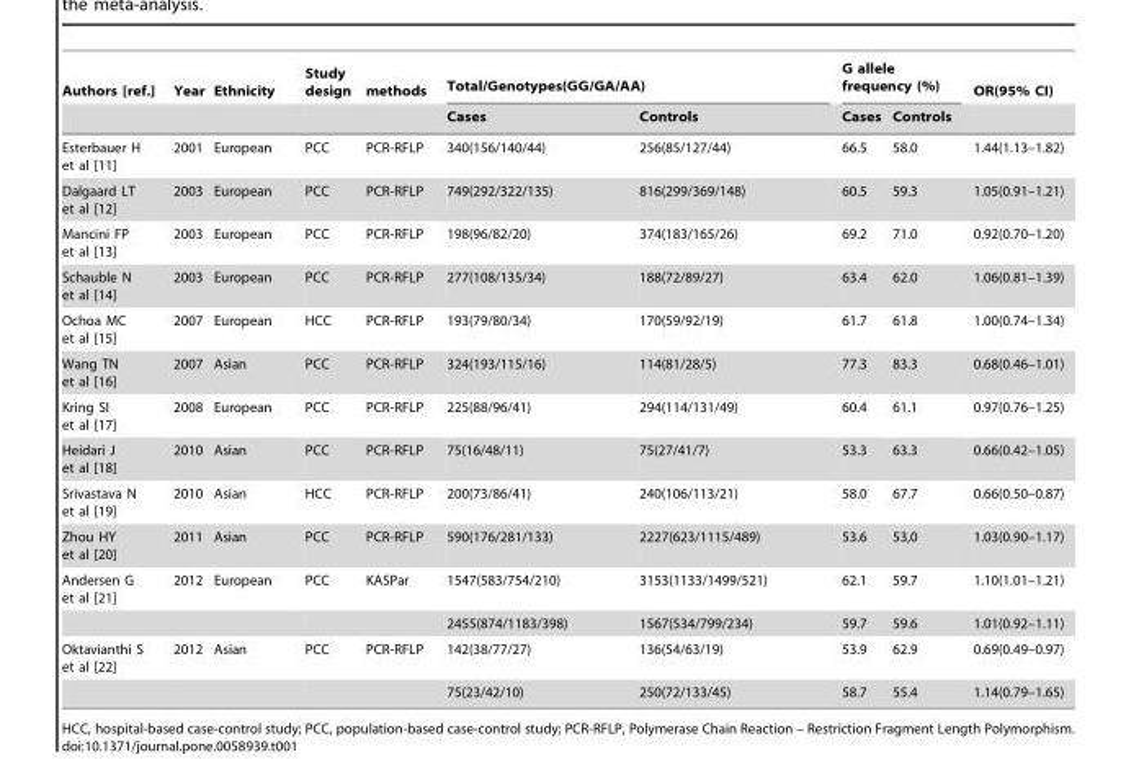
<table><thead><tr><td rowspan="2">Authors [ref.]</td><td rowspan="2">Year</td><td rowspan="2">Ethnicity</td><td rowspan="2">Study design</td><td rowspan="2">methods</td><td colspan="2">Total/Genotypes(GG/GA/AA)</td><td colspan="2">G allele frequency (%)</td><td rowspan="2">OR(95% CI)</td></tr><tr><td>Cases</td><td>Controls</td><td>Cases</td><td>Controls</td></tr></thead><tbody><tr><td>Esterbauer H et al [11]</td><td>2001</td><td>European</td><td>PCC</td><td>PCR-RFLP</td><td>340(156/140/44)</td><td>256(85/127/44)</td><td>66.5</td><td>58.0</td><td>1.44(1.13–1.82)</td></tr><tr><td>Dalgaard LT et al [12]</td><td>2003</td><td>European</td><td>PCC</td><td>PCR-RFLP</td><td>749(292/322/135)</td><td>816(299/369/148)</td><td>60.5</td><td>59.3</td><td>1.05(0.91–1.21)</td></tr><tr><td>Mancini FP et al [13]</td><td>2003</td><td>European</td><td>PCC</td><td>PCR-RFLP</td><td>198(96/82/20)</td><td>374(183/165/26)</td><td>69.2</td><td>71.0</td><td>0.92(0.70–1.20)</td></tr><tr><td>Schauble N et al [14]</td><td>2003</td><td>European</td><td>PCC</td><td>PCR-RFLP</td><td>277(108/135/34)</td><td>188(72/89/27)</td><td>63.4</td><td>62.0</td><td>1.06(0.81–1.39)</td></tr><tr><td>Ochoa MC et al [15]</td><td>2007</td><td>European</td><td>HCC</td><td>PCR-RFLP</td><td>193(79/80/34)</td><td>170(59/92/19)</td><td>61.7</td><td>61.8</td><td>1.00(0.74–1.34)</td></tr><tr><td>Wang TN et al [16]</td><td>2007</td><td>Asian</td><td>PCC</td><td>PCR-RFLP</td><td>324(193/115/16)</td><td>114(81/28/5)</td><td>77.3</td><td>83.3</td><td>0.68(0.46–1.01)</td></tr><tr><td>Kring SI et al [17]</td><td>2008</td><td>European</td><td>PCC</td><td>PCR-RFLP</td><td>225(88/96/41)</td><td>294(114/131/49)</td><td>60.4</td><td>61.1</td><td>0.97(0.76–1.25)</td></tr><tr><td>Heidari J et al [18]</td><td>2010</td><td>Asian</td><td>PCC</td><td>PCR-RFLP</td><td>75(16/48/11)</td><td>75(27/41/7)</td><td>53.3</td><td>63.3</td><td>0.66(0.42–1.05)</td></tr><tr><td>Srivastava N et al [19]</td><td>2010</td><td>Asian</td><td>HCC</td><td>PCR-RFLP</td><td>200(73/86/41)</td><td>240(106/113/21)</td><td>58.0</td><td>67.7</td><td>0.66(0.50–0.87)</td></tr><tr><td>Zhou HY et al [20]</td><td>2011</td><td>Asian</td><td>PCC</td><td>PCR-RFLP</td><td>590(176/281/133)</td><td>2227(623/1115/489)</td><td>53.6</td><td>53,0</td><td>1.03(0.90–1.17)</td></tr><tr><td rowspan="2">Andersen G et al [21]</td><td>2012</td><td>European</td><td>PCC</td><td>KASPar</td><td>1547(583/754/210)</td><td>3153(1133/1499/521)</td><td>62.1</td><td>59.7</td><td>1.10(1.01–1.21)</td></tr><tr><td></td><td></td><td></td><td></td><td>2455(874/1183/398)</td><td>1567(534/799/234)</td><td>59.7</td><td>59.6</td><td>1.01(0.92–1.11)</td></tr><tr><td rowspan="2">Oktavianthi S et al [22]</td><td>2012</td><td>Asian</td><td>PCC</td><td>PCR-RFLP</td><td>142(38/77/27)</td><td>136(54/63/19)</td><td>53.9</td><td>62.9</td><td>0.69(0.49–0.97)</td></tr><tr><td></td><td></td><td></td><td></td><td>75(23/42/10)</td><td>250(72/133/45)</td><td>58.7</td><td>55.4</td><td>1.14(0.79–1.65)</td></tr></tbody></table>